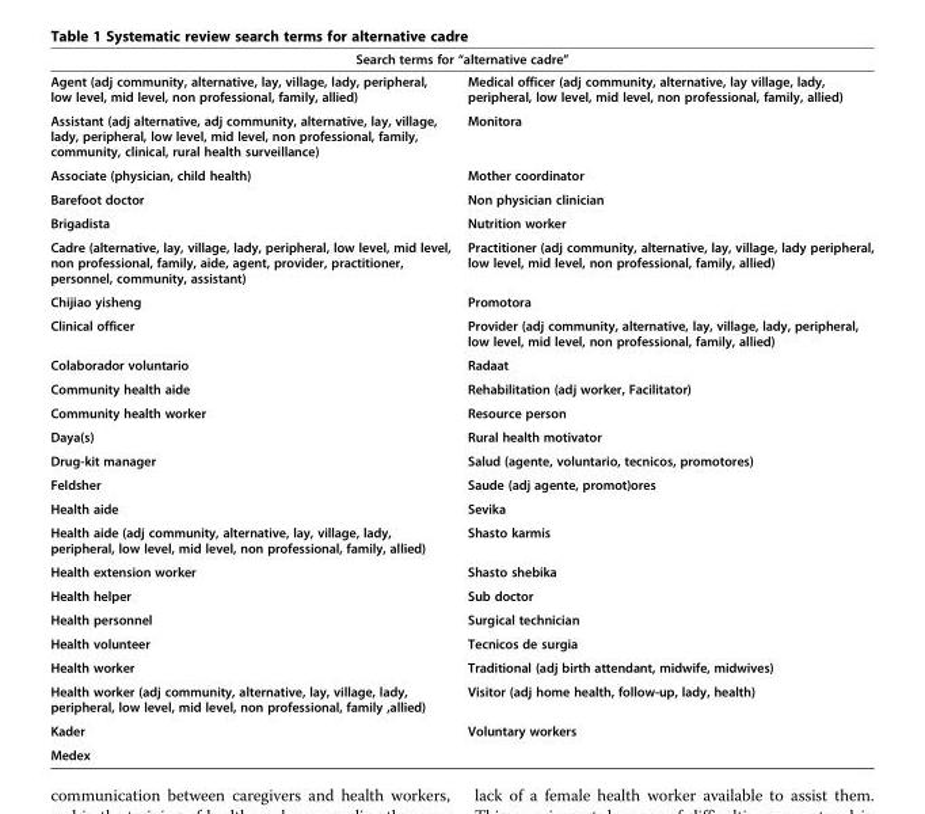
<table><thead><tr><td colspan="2">Search terms for “alternative cadre”</td></tr><tr><td>Agent (adj community, alternative, lay, village, lady, peripheral, low level, mid level, non professional, family, allied)</td><td>Medical officer (adj community, alternative, lay village, lady, peripheral, low level, mid level, non professional, family, allied)</td></tr></thead><tbody><tr><td>Assistant (adj alternative, adj community, alternative, lay, village, lady, peripheral, low level, mid level, non professional, family, community, clinical, rural health surveillance)</td><td>Monitora</td></tr><tr><td>Associate (physician, child health)</td><td>Mother coordinator</td></tr><tr><td>Barefoot doctor</td><td>Non physician clinician</td></tr><tr><td>Brigadista</td><td>Nutrition worker</td></tr><tr><td>Cadre (alternative, lay, village, lady, peripheral, low level, mid level, non professional, family, aide, agent, provider, practitioner, personnel, community, assistant)</td><td>Practitioner (adj community, alternative, lay, village, lady peripheral, low level, mid level, non professional, family, allied)</td></tr><tr><td>Chijiao yisheng</td><td>Promotora</td></tr><tr><td>Clinical officer</td><td>Provider (adj community, alternative, lay, village, lady, peripheral, low level, mid level, non professional, family, allied)</td></tr><tr><td>Colaborador voluntario</td><td>Radaat</td></tr><tr><td>Community health aide</td><td>Rehabilitation (adj worker, Facilitator)</td></tr><tr><td>Community health worker</td><td>Resource person</td></tr><tr><td>Daya(s)</td><td>Rural health motivator</td></tr><tr><td>Drug-kit manager</td><td>Salud (agente, voluntario, tecnicos, promotores)</td></tr><tr><td>Feldsher</td><td>Saude (adj agente, promot)ores</td></tr><tr><td>Health aide</td><td>Sevika</td></tr><tr><td>Health aide (adj community, alternative, lay, village, lady, peripheral, low level, mid level, non professional, family, allied)</td><td>Shasto karmis</td></tr><tr><td>Health extension worker</td><td>Shasto shebika</td></tr><tr><td>Health helper</td><td>Sub doctor</td></tr><tr><td>Health personnel</td><td>Surgical technician</td></tr><tr><td>Health volunteer</td><td>Tecnicos de surgia</td></tr><tr><td>Health worker</td><td>Traditional (adj birth attendant, midwife, midwives)</td></tr><tr><td>Health worker (adj community, alternative, lay, village, lady, peripheral, low level, mid level, non professional, family ,allied)</td><td>Visitor (adj home health, follow-up, lady, health)</td></tr><tr><td>Kader</td><td>Voluntary workers</td></tr><tr><td>Medex</td><td></td></tr></tbody></table>